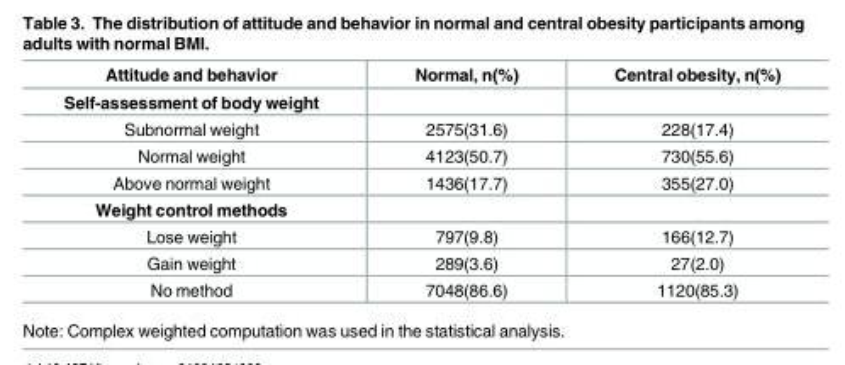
<table><thead><tr><td>Attitude and behavior</td><td>Normal, n(%)</td><td>Central obesity, n(%)</td></tr></thead><tbody><tr><td colspan="3">Self-assessment of body weight</td></tr><tr><td>Subnormal weight</td><td>2575(31.6)</td><td>228(17.4)</td></tr><tr><td>Normal weight</td><td>4123(50.7)</td><td>730(55.6)</td></tr><tr><td>Above normal weight</td><td>1436(17.7)</td><td>355(27.0)</td></tr><tr><td colspan="3">Weight control methods</td></tr><tr><td>Lose weight</td><td>797(9.8)</td><td>166(12.7)</td></tr><tr><td>Gain weight</td><td>289(3.6)</td><td>27(2.0)</td></tr><tr><td>No method</td><td>7048(86.6)</td><td>1120(85.3)</td></tr></tbody></table>